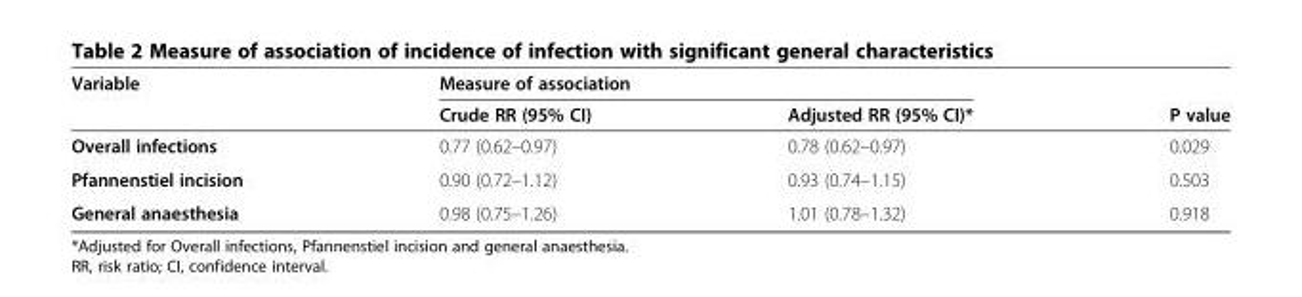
<table><thead><tr><td rowspan="2">Variable</td><td colspan="2">Measure of association</td><td rowspan="2">P value</td></tr><tr><td>Crude RR (95% CI)</td><td>Adjusted RR (95% CI)*</td></tr></thead><tbody><tr><td>Overall infections</td><td>0.77 (0.62–0.97)</td><td>0.78 (0.62–0.97)</td><td>0.029</td></tr><tr><td>Pfannenstiel incision</td><td>0.90 (0.72–1.12)</td><td>0.93 (0.74–1.15)</td><td>0.503</td></tr><tr><td>General anaesthesia</td><td>0.98 (0.75–1.26)</td><td>1.01 (0.78–1.32)</td><td>0.918</td></tr></tbody></table>